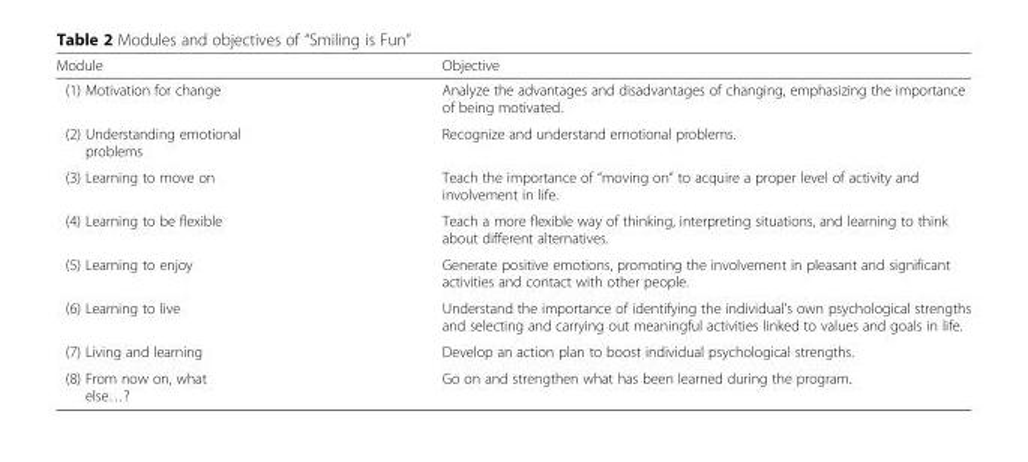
<table><thead><tr><td>Module</td><td>Objective</td></tr></thead><tbody><tr><td>(1) Motivation for change</td><td>Analyze the advantages and disadvantages of changing, emphasizing the importance of being motivated.</td></tr><tr><td>(2) Understanding emotional problems</td><td>Recognize and understand emotional problems.</td></tr><tr><td>(3) Learning to move on</td><td>Teach the importance of “moving on” to acquire a proper level of activity and involvement in life.</td></tr><tr><td>(4) Learning to be flexible</td><td>Teach a more flexible way of thinking, interpreting situations, and learning to think about different alternatives.</td></tr><tr><td>(5) Learning to enjoy</td><td>Generate positive emotions, promoting the involvement in pleasant and significant activities and contact with other people.</td></tr><tr><td>(6) Learning to live</td><td>Understand the importance of identifying the individual’s own psychological strengths and selecting and carrying out meaningful activities linked to values and goals in life.</td></tr><tr><td>(7) Living and learning</td><td>Develop an action plan to boost individual psychological strengths.</td></tr><tr><td>(8) From now on, what else…?</td><td>Go on and strengthen what has been learned during the program.</td></tr></tbody></table>